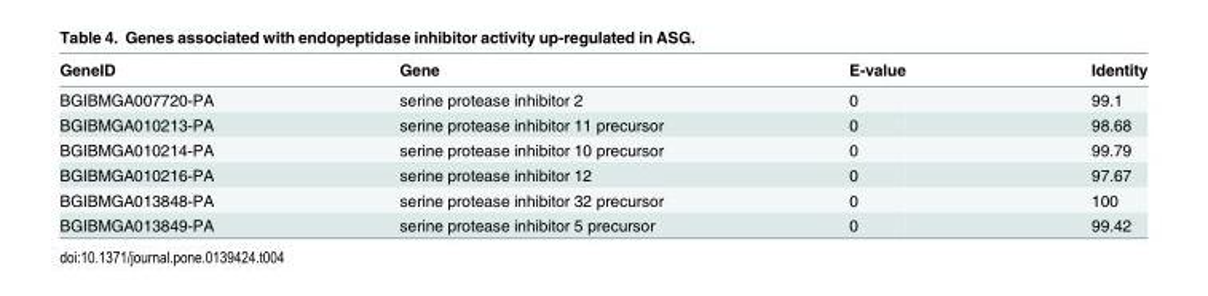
<table><thead><tr><td>GeneID</td><td>Gene</td><td>E-value</td><td>Identity</td></tr></thead><tbody><tr><td>BGIBMGA007720-PA</td><td>serine protease inhibitor 2</td><td>0</td><td>99.1</td></tr><tr><td>BGIBMGA010213-PA</td><td>serine protease inhibitor 11 precursor</td><td>0</td><td>98.68</td></tr><tr><td>BGIBMGA010214-PA</td><td>serine protease inhibitor 10 precursor</td><td>0</td><td>99.79</td></tr><tr><td>BGIBMGA010216-PA</td><td>serine protease inhibitor 12</td><td>0</td><td>97.67</td></tr><tr><td>BGIBMGA013848-PA</td><td>serine protease inhibitor 32 precursor</td><td>0</td><td>100</td></tr><tr><td>BGIBMGA013849-PA</td><td>serine protease inhibitor 5 precursor</td><td>0</td><td>99.42</td></tr></tbody></table>